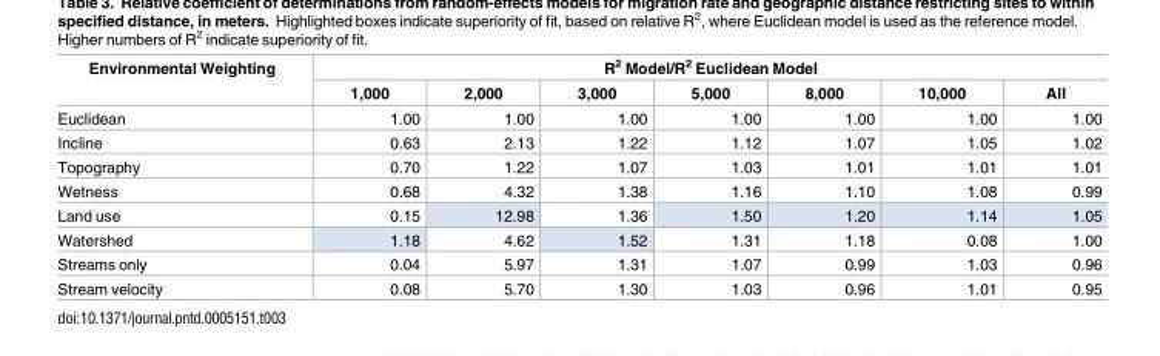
<table><thead><tr><td rowspan="2">Environmental Weighting</td><td colspan="7">R<sup>2</sup> Model/R<sup>2</sup> Euclidean Model</td></tr><tr><td>1,000</td><td>2,000</td><td>3,000</td><td>5,000</td><td>8,000</td><td>10,000</td><td>All</td></tr></thead><tbody><tr><td>Euclidean</td><td>1.00</td><td>1.00</td><td>1.00</td><td>1.00</td><td>1.00</td><td>1.00</td><td>1.00</td></tr><tr><td>Incline</td><td>0.63</td><td>2.13</td><td>1.22</td><td>1.12</td><td>1.07</td><td>1.05</td><td>1.02</td></tr><tr><td>Topography</td><td>0.70</td><td>1.22</td><td>1.07</td><td>1.03</td><td>1.01</td><td>1.01</td><td>1.01</td></tr><tr><td>Wetness</td><td>0.68</td><td>4.32</td><td>1.38</td><td>1.16</td><td>1.10</td><td>1.08</td><td>0.99</td></tr><tr><td>Land use</td><td>0.15</td><td>12.98</td><td>1.36</td><td>1.50</td><td>1.20</td><td>1.14</td><td>1.05</td></tr><tr><td>Watershed</td><td>1.18</td><td>4.62</td><td>1.52</td><td>1.31</td><td>1.18</td><td>0.08</td><td>1.00</td></tr><tr><td>Streams only</td><td>0.04</td><td>5.97</td><td>1.31</td><td>1.07</td><td>0.99</td><td>1.03</td><td>0.96</td></tr><tr><td>Stream velocity</td><td>0.08</td><td>5.70</td><td>1.30</td><td>1.03</td><td>0.96</td><td>1.01</td><td>0.95</td></tr></tbody></table>